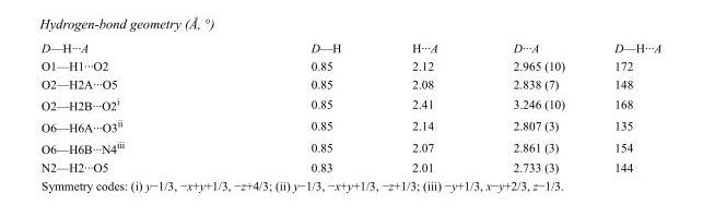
<table><tbody><tr><td>D—H···A</td><td>D—H</td><td>H···A</td><td>D···A</td><td>D—H···A</td></tr><tr><td>O1—H1···O2</td><td>0.85</td><td>2.12</td><td>2.965 (10)</td><td>172</td></tr><tr><td>O2—H2A···O5</td><td>0.85</td><td>2.08</td><td>2.838 (7)</td><td>148</td></tr><tr><td>O2—H2B···O2<sup>i</sup></td><td>0.85</td><td>2.41</td><td>3.246 (10)</td><td>168</td></tr><tr><td>O6—H6A···O3<sup>ii</sup></td><td>0.85</td><td>2.14</td><td>2.807 (3)</td><td>135</td></tr><tr><td>O6—H6B···N4<sup>iii</sup></td><td>0.85</td><td>2.07</td><td>2.861 (3)</td><td>154</td></tr><tr><td>N2—H2···O5</td><td>0.83</td><td>2.01</td><td>2.733 (3)</td><td>144</td></tr></tbody></table>